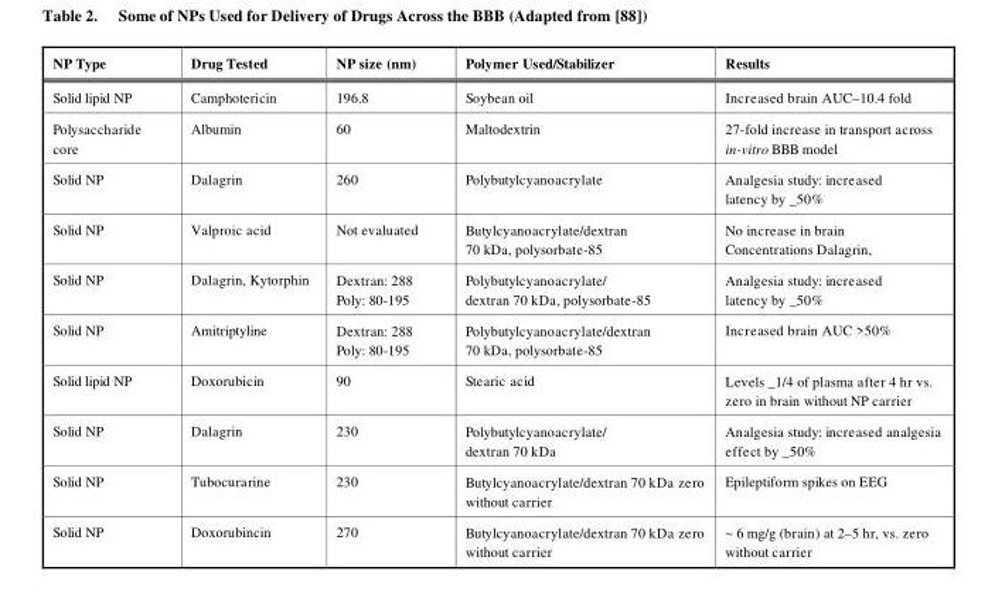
<table><thead><tr><td>NP Type</td><td>Drug Tested</td><td>NP size (nm)</td><td>Polymer Used/Stabilizer</td><td>Results</td></tr></thead><tbody><tr><td>Solid lipid NP</td><td>Camphotericin</td><td>196.8</td><td>Soybean oil</td><td>Increased brain AUC–10.4 fold</td></tr><tr><td>Polysaccharide core</td><td>Albumin</td><td>60</td><td>Maltodextrin</td><td>27-fold increase in transport across in-vitro BBB model</td></tr><tr><td>Solid NP</td><td>Dalagrin</td><td>260</td><td>Polybutylcyanoacrylate</td><td>Analgesia study: increased latency by _50%</td></tr><tr><td>Solid NP</td><td>Valproic acid</td><td>Not evaluated</td><td>Butylcyanoacrylate/dextran 70 kDa, polysorbate-85</td><td>No increase in brain Concentrations Dalagrin,</td></tr><tr><td>Solid NP</td><td>Dalagrin, Kytorphin</td><td>Dextran: 288 Poly: 80-195</td><td>Polybutylcyanoacrylate/ dextran 70 kDa, polysorbate-85</td><td>Analgesia study: increased latency by _50%</td></tr><tr><td>Solid NP</td><td>Amitriptyline</td><td>Dextran: 288 Poly: 80-195</td><td>Polybutylcyanoacrylate/dextran 70 kDa, polysorbate-85</td><td>Increased brain AUC &gt;50%</td></tr><tr><td>Solid lipid NP</td><td>Doxorubicin</td><td>90</td><td>Stearic acid</td><td>Levels _1/4 of plasma after 4 hr vs. zero in brain without NP carrier</td></tr><tr><td>Solid NP</td><td>Dalagrin</td><td>230</td><td>Polybutylcyanoacrylate/ dextran 70 kDa</td><td>Analgesia study: increased analgesia effect by _50%</td></tr><tr><td>Solid NP</td><td>Tubocurarine</td><td>230</td><td>Butylcyanoacrylate/dextran 70 kDa zero without carrier</td><td>Epileptiform spikes on EEG</td></tr><tr><td>Solid NP</td><td>Doxorubincin</td><td>270</td><td>Butylcyanoacrylate/dextran 70 kDa zero without carrier</td><td>~ 6 mg/g (brain) at 2–5 hr, vs. zero without carrier</td></tr></tbody></table>